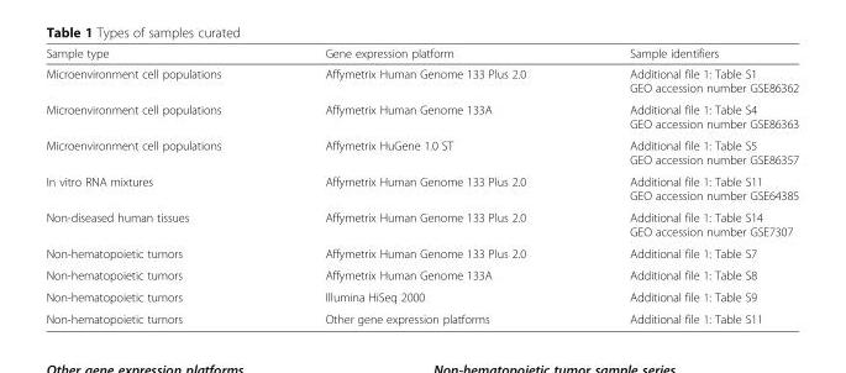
<table><thead><tr><td>Sample type</td><td>Gene expression platform</td><td>Sample identifiers</td></tr></thead><tbody><tr><td>Microenvironment cell populations</td><td>Affymetrix Human Genome 133 Plus 2.0</td><td>Additional file 1: Table S1 GEO accession number GSE86362</td></tr><tr><td>Microenvironment cell populations</td><td>Affymetrix Human Genome 133A</td><td>Additional file 1: Table S4 GEO accession number GSE86363</td></tr><tr><td>Microenvironment cell populations</td><td>Affymetrix HuGene 1.0 ST</td><td>Additional file 1: Table S5 GEO accession number GSE86357</td></tr><tr><td>In vitro RNA mixtures</td><td>Affymetrix Human Genome 133 Plus 2.0</td><td>Additional file 1: Table S11 GEO accession number GSE64385</td></tr><tr><td>Non-diseased human tissues</td><td>Affymetrix Human Genome 133 Plus 2.0</td><td>Additional file 1: Table S14 GEO accession number GSE7307</td></tr><tr><td>Non-hematopoietic tumors</td><td>Affymetrix Human Genome 133 Plus 2.0</td><td>Additional file 1: Table S7</td></tr><tr><td>Non-hematopoietic tumors</td><td>Affymetrix Human Genome 133A</td><td>Additional file 1: Table S8</td></tr><tr><td>Non-hematopoietic tumors</td><td>Illumina HiSeq 2000</td><td>Additional file 1: Table S9</td></tr><tr><td>Non-hematopoietic tumors</td><td>Other gene expression platforms</td><td>Additional file 1: Table S11</td></tr></tbody></table>